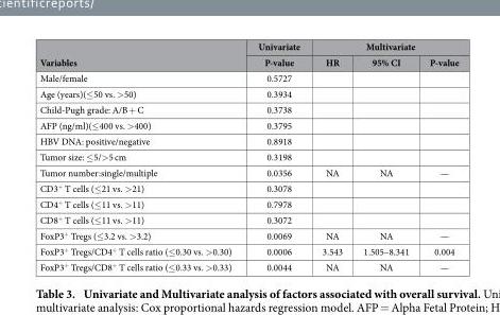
<table><thead><tr><td rowspan="2">Variables</td><td rowspan="2">Univariate P-value</td><td colspan="3">Multivariate</td></tr><tr><td>HR</td><td>95% CI</td><td>P-value</td></tr></thead><tbody><tr><td>Male/female</td><td>0.5727</td><td></td><td></td><td></td></tr><tr><td>Age (years)(≤ 50 vs. &gt; 50)</td><td>0.3934</td><td></td><td></td><td></td></tr><tr><td>Child-Pugh grade: A/B + C</td><td>0.3738</td><td></td><td></td><td></td></tr><tr><td>AFP (ng/ml)(≤ 400 vs. &gt; 400)</td><td>0.3795</td><td></td><td></td><td></td></tr><tr><td>HBV DNA: positive/negative</td><td>0.8918</td><td></td><td></td><td></td></tr><tr><td>Tumor size: ≤ 5/&gt;5 cm</td><td>0.3198</td><td></td><td></td><td></td></tr><tr><td>Tumor number:single/multiple</td><td>0.0356</td><td>NA</td><td>NA</td><td>—</td></tr><tr><td>CD3<sup>+</sup> T cells (≤ 21 vs. &gt; 21)</td><td>0.3078</td><td></td><td></td><td></td></tr><tr><td>CD4<sup>+</sup> T cells (≤ 11 vs. &gt; 11)</td><td>0.7978</td><td></td><td></td><td></td></tr><tr><td>CD8<sup>+</sup> T cells (≤ 11 vs. &gt; 11)</td><td>0.3072</td><td></td><td></td><td></td></tr><tr><td>FoxP3<sup>+</sup> Tregs (≤ 3.2 vs. &gt; 3.2)</td><td>0.0069</td><td>NA</td><td>NA</td><td>—</td></tr><tr><td>FoxP3<sup>+</sup> Tregs/CD4<sup>+</sup> T cells ratio (≤ 0.30 vs. &gt; 0.30)</td><td>0.0006</td><td>3.543</td><td>1.505–8.341</td><td>0.004</td></tr><tr><td>FoxP3<sup>+</sup> Tregs/CD8<sup>+</sup> T cells ratio (≤ 0.33 vs. &gt; 0.33)</td><td>0.0044</td><td>NA</td><td>NA</td><td>—</td></tr></tbody></table>